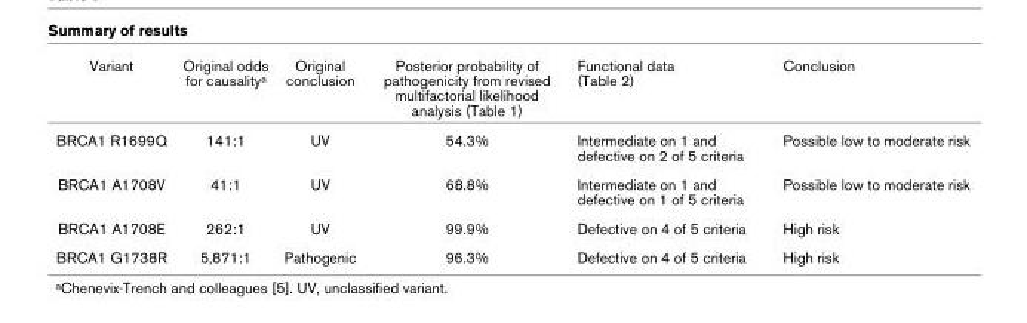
<table><thead><tr><td>Variant</td><td>Original odds for causality<sup>a</sup></td><td>Original conclusion</td><td>Posterior probability of pathogenicity from revised multifactorial likelihood analysis (Table 1)</td><td>Functional data (Table 2)</td><td>Conclusion</td></tr></thead><tbody><tr><td>BRCA1 R1699Q</td><td>141:1</td><td>UV</td><td>54.3%</td><td>Intermediate on 1 and defective on 2 of 5 criteria</td><td>Possible low to moderate risk</td></tr><tr><td>BRCA1 A1708V</td><td>41:1</td><td>UV</td><td>68.8%</td><td>Intermediate on 1 and defective on 1 of 5 criteria</td><td>Possible low to moderate risk</td></tr><tr><td>BRCA1 A1708E</td><td>262:1</td><td>UV</td><td>99.9%</td><td>Defective on 4 of 5 criteria</td><td>High risk</td></tr><tr><td>BRCA1 G1738R</td><td>5,871:1</td><td>Pathogenic</td><td>96.3%</td><td>Defective on 4 of 5 criteria</td><td>High risk</td></tr></tbody></table>